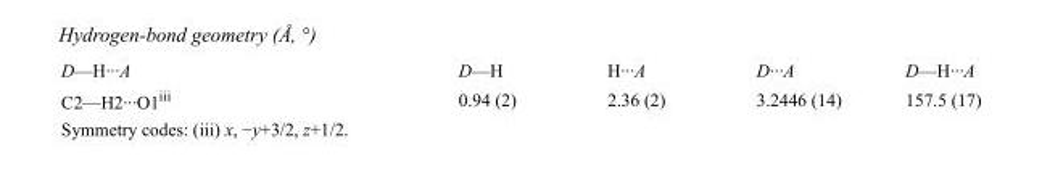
<table><tbody><tr><td>D—H···A</td><td>D—H</td><td>H···A</td><td>D···A</td><td>D—H···A</td></tr><tr><td>C2—H2···O1<sup>iii</sup></td><td>0.94 (2)</td><td>2.36 (2)</td><td>3.2446 (14)</td><td>157.5 (17)</td></tr></tbody></table>